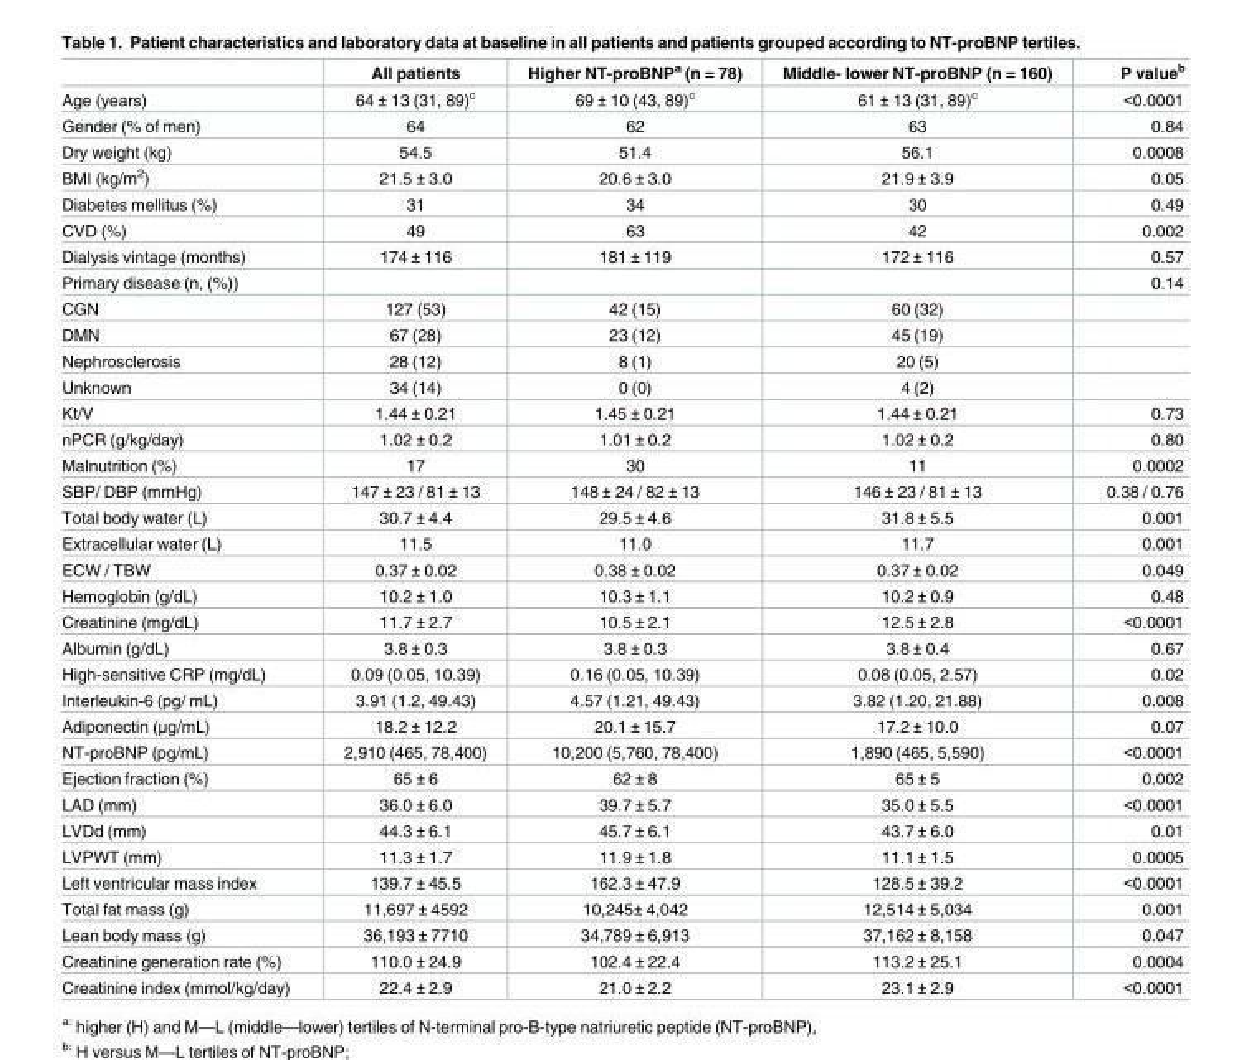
<table><thead><tr><td></td><td>All patients</td><td>Higher NT-proBNP<sup>a</sup> (n = 78)</td><td>Middle- lower NT-proBNP (n = 160)</td><td>P value<sup>b</sup></td></tr></thead><tbody><tr><td>Age (years)</td><td>64 ± 13 (31, 89)<sup>c</sup></td><td>69 ± 10 (43, 89)<sup>c</sup></td><td>61 ± 13 (31, 89)<sup>c</sup></td><td>&lt;0.0001</td></tr><tr><td>Gender (% of men)</td><td>64</td><td>62</td><td>63</td><td>0.84</td></tr><tr><td>Dry weight (kg)</td><td>54.5</td><td>51.4</td><td>56.1</td><td>0.0008</td></tr><tr><td>BMI (kg/m<sup>2</sup>)</td><td>21.5 ± 3.0</td><td>20.6 ± 3.0</td><td>21.9 ± 3.9</td><td>0.05</td></tr><tr><td>Diabetes mellitus (%)</td><td>31</td><td>34</td><td>30</td><td>0.49</td></tr><tr><td>CVD (%)</td><td>49</td><td>63</td><td>42</td><td>0.002</td></tr><tr><td>Dialysis vintage (months)</td><td>174 ± 116</td><td>181 ± 119</td><td>172 ± 116</td><td>0.57</td></tr><tr><td>Primary disease (n, (%))</td><td></td><td></td><td></td><td>0.14</td></tr><tr><td>CGN</td><td>127 (53)</td><td>42 (15)</td><td>60 (32)</td><td></td></tr><tr><td>DMN</td><td>67 (28)</td><td>23 (12)</td><td>45 (19)</td><td></td></tr><tr><td>Nephrosclerosis</td><td>28 (12)</td><td>8 (1)</td><td>20 (5)</td><td></td></tr><tr><td>Unknown</td><td>34 (14)</td><td>0 (0)</td><td>4 (2)</td><td></td></tr><tr><td>Kt/V</td><td>1.44 ± 0.21</td><td>1.45 ± 0.21</td><td>1.44 ± 0.21</td><td>0.73</td></tr><tr><td>nPCR (g/kg/day)</td><td>1.02 ± 0.2</td><td>1.01 ± 0.2</td><td>1.02 ± 0.2</td><td>0.80</td></tr><tr><td>Malnutrition (%)</td><td>17</td><td>30</td><td>11</td><td>0.0002</td></tr><tr><td>SBP/ DBP (mmHg)</td><td>147 ± 23 / 81 ± 13</td><td>148 ± 24 / 82 ± 13</td><td>146 ± 23 / 81 ± 13</td><td>0.38 / 0.76</td></tr><tr><td>Total body water (L)</td><td>30.7 ± 4.4</td><td>29.5 ± 4.6</td><td>31.8 ± 5.5</td><td>0.001</td></tr><tr><td>Extracellular water (L)</td><td>11.5</td><td>11.0</td><td>11.7</td><td>0.001</td></tr><tr><td>ECW / TBW</td><td>0.37 ± 0.02</td><td>0.38 ± 0.02</td><td>0.37 ± 0.02</td><td>0.049</td></tr><tr><td>Hemoglobin (g/dL)</td><td>10.2 ± 1.0</td><td>10.3 ± 1.1</td><td>10.2 ± 0.9</td><td>0.48</td></tr><tr><td>Creatinine (mg/dL)</td><td>11.7 ± 2.7</td><td>10.5 ± 2.1</td><td>12.5 ± 2.8</td><td>&lt;0.0001</td></tr><tr><td>Albumin (g/dL)</td><td>3.8 ± 0.3</td><td>3.8 ± 0.3</td><td>3.8 ± 0.4</td><td>0.67</td></tr><tr><td>High-sensitive CRP (mg/dL)</td><td>0.09 (0.05, 10.39)</td><td>0.16 (0.05, 10.39)</td><td>0.08 (0.05, 2.57)</td><td>0.02</td></tr><tr><td>Interleukin-6 (pg/ mL)</td><td>3.91 (1.2, 49.43)</td><td>4.57 (1.21, 49.43)</td><td>3.82 (1.20, 21.88)</td><td>0.008</td></tr><tr><td>Adiponectin (μg/mL)</td><td>18.2 ± 12.2</td><td>20.1 ± 15.7</td><td>17.2 ± 10.0</td><td>0.07</td></tr><tr><td>NT-proBNP (pg/mL)</td><td>2,910 (465, 78,400)</td><td>10,200 (5,760, 78,400)</td><td>1,890 (465, 5,590)</td><td>&lt;0.0001</td></tr><tr><td>Ejection fraction (%)</td><td>65 ± 6</td><td>62 ± 8</td><td>65 ± 5</td><td>0.002</td></tr><tr><td>LAD (mm)</td><td>36.0 ± 6.0</td><td>39.7 ± 5.7</td><td>35.0 ± 5.5</td><td>&lt;0.0001</td></tr><tr><td>LVDd (mm)</td><td>44.3 ± 6.1</td><td>45.7 ± 6.1</td><td>43.7 ± 6.0</td><td>0.01</td></tr><tr><td>LVPWT (mm)</td><td>11.3 ± 1.7</td><td>11.9 ± 1.8</td><td>11.1 ± 1.5</td><td>0.0005</td></tr><tr><td>Left ventricular mass index</td><td>139.7 ± 45.5</td><td>162.3 ± 47.9</td><td>128.5 ± 39.2</td><td>&lt;0.0001</td></tr><tr><td>Total fat mass (g)</td><td>11,697 ± 4592</td><td>10,245± 4,042</td><td>12,514 ± 5,034</td><td>0.001</td></tr><tr><td>Lean body mass (g)</td><td>36,193 ± 7710</td><td>34,789 ± 6,913</td><td>37,162 ± 8,158</td><td>0.047</td></tr><tr><td>Creatinine generation rate (%)</td><td>110.0 ± 24.9</td><td>102.4 ± 22.4</td><td>113.2 ± 25.1</td><td>0.0004</td></tr><tr><td>Creatinine index (mmol/kg/day)</td><td>22.4 ± 2.9</td><td>21.0 ± 2.2</td><td>23.1 ± 2.9</td><td>&lt;0.0001</td></tr></tbody></table>